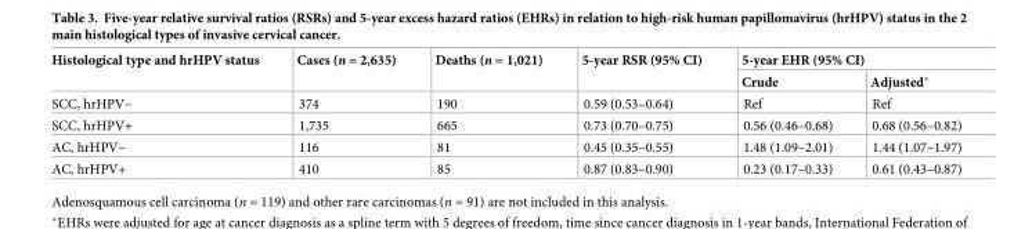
<table><thead><tr><td rowspan="2">Histological type and hrHPV status</td><td rowspan="2">Cases (n = 2,635)</td><td rowspan="2">Deaths (n = 1,021)</td><td rowspan="2">5-year RSR (95% CI)</td><td colspan="2">5-year EHR (95% CI)</td></tr><tr><td>Crude</td><td>Adjusted*</td></tr></thead><tbody><tr><td>SCC, hrHPV−</td><td>374</td><td>190</td><td>0.59 (0.53–0.64)</td><td>Ref</td><td>Ref</td></tr><tr><td>SCC, hrHPV+</td><td>1,735</td><td>665</td><td>0.73 (0.70–0.75)</td><td>0.56 (0.46–0.68)</td><td>0.68 (0.56–0.82)</td></tr><tr><td>AC, hrHPV−</td><td>116</td><td>81</td><td>0.45 (0.35–0.55)</td><td>1.48 (1.09–2.01)</td><td>1.44 (1.07–1.97)</td></tr><tr><td>AC, hrHPV+</td><td>410</td><td>85</td><td>0.87 (0.83–0.90)</td><td>0.23 (0.17–0.33)</td><td>0.61 (0.43–0.87)</td></tr></tbody></table>